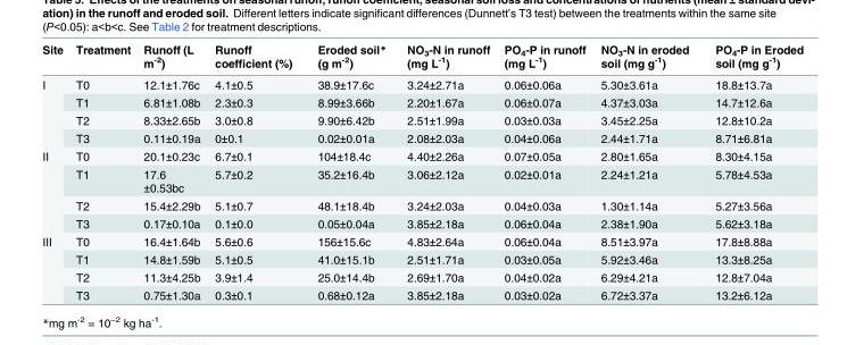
<table><thead><tr><td>Site</td><td>Treatment</td><td>Runoff (L m<sup>-2</sup>)</td><td>Runoff coefficient (%)</td><td>Eroded soil* (g m<sup>-2</sup>)</td><td>NO<sub>3</sub>-N in runoff (mg L<sup>-1</sup>)</td><td>PO<sub>4</sub>-P in runoff (mg L<sup>-1</sup>)</td><td>NO<sub>3</sub>-N in eroded soil (mg g<sup>-1</sup>)</td><td>PO<sub>4</sub>-P in Eroded soil (mg g<sup>-1</sup>)</td></tr></thead><tbody><tr><td rowspan="4">I</td><td>T0</td><td>12.1±1.76c</td><td>4.1±0.5</td><td>38.9±17.6c</td><td>3.24±2.71a</td><td>0.06±0.06a</td><td>5.30±3.61a</td><td>18.8±13.7a</td></tr><tr><td>T1</td><td>6.81±1.08b</td><td>2.3±0.3</td><td>8.99±3.66b</td><td>2.20±1.67a</td><td>0.06±0.07a</td><td>4.37±3.03a</td><td>14.7±12.6a</td></tr><tr><td>T2</td><td>8.33±2.65b</td><td>3.0±0.8</td><td>9.90±6.42b</td><td>2.51±1.99a</td><td>0.03±0.03a</td><td>3.45±2.25a</td><td>12.8±10.2a</td></tr><tr><td>T3</td><td>0.11±0.19a</td><td>0±0.1</td><td>0.02±0.01a</td><td>2.08±2.03a</td><td>0.04±0.06a</td><td>2.44±1.71a</td><td>8.71±6.81a</td></tr><tr><td rowspan="4">II</td><td>T0</td><td>20.1±0.23c</td><td>6.7±0.1</td><td>104±18.4c</td><td>4.40±2.26a</td><td>0.07±0.05a</td><td>2.80±1.65a</td><td>8.30±4.15a</td></tr><tr><td>T1</td><td>17.6 ±0.53bc</td><td>5.7±0.2</td><td>35.2±16.4b</td><td>3.06±2.12a</td><td>0.02±0.01a</td><td>2.24±1.21a</td><td>5.78±4.53a</td></tr><tr><td>T2</td><td>15.4±2.29b</td><td>5.1±0.7</td><td>48.1±18.4b</td><td>3.24±2.03a</td><td>0.04±0.03a</td><td>1.30±1.14a</td><td>5.27±3.56a</td></tr><tr><td>T3</td><td>0.17±0.10a</td><td>0.1±0.0</td><td>0.05±0.04a</td><td>3.85±2.18a</td><td>0.06±0.04a</td><td>2.38±1.90a</td><td>5.62±3.18a</td></tr><tr><td rowspan="4">III</td><td>T0</td><td>16.4±1.64b</td><td>5.6±0.6</td><td>156±15.6c</td><td>4.83±2.64a</td><td>0.06±0.04a</td><td>8.51±3.97a</td><td>17.8±8.88a</td></tr><tr><td>T1</td><td>14.8±1.59b</td><td>5.1±0.5</td><td>41.0±15.1b</td><td>2.51±1.71a</td><td>0.03±0.05a</td><td>5.92±3.46a</td><td>13.3±8.25a</td></tr><tr><td>T2</td><td>11.3±4.25b</td><td>3.9±1.4</td><td>25.0±14.4b</td><td>2.69±1.70a</td><td>0.04±0.02a</td><td>6.29±4.21a</td><td>12.8±7.04a</td></tr><tr><td>T3</td><td>0.75±1.30a</td><td>0.3±0.1</td><td>0.68±0.12a</td><td>3.85±2.18a</td><td>0.03±0.02a</td><td>6.72±3.37a</td><td>13.2±6.12a</td></tr></tbody></table>